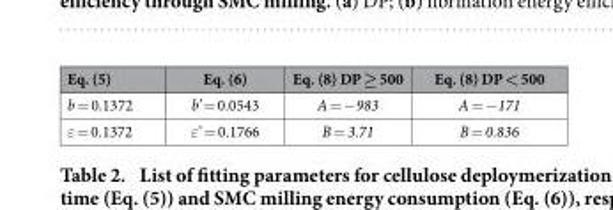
<table><thead><tr><td>Eq. (5)</td><td>Eq. (6)</td><td>Eq. (8) DP ≥ 500</td><td>Eq. (8) DP &lt; 500</td></tr></thead><tbody><tr><td>b = 0.1372</td><td>b’ = 0.0543</td><td>A = − 983</td><td>A = − 171</td></tr><tr><td>ε = 0.1372</td><td>ε’ = 0.1766</td><td>B = 3.71</td><td>B = 0.836</td></tr></tbody></table>